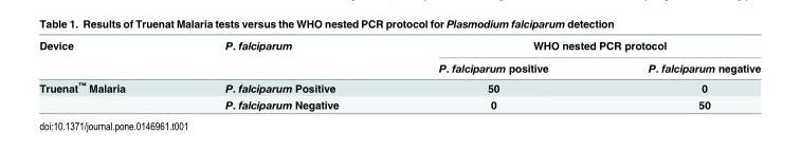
<table><thead><tr><td rowspan="2">Device</td><td rowspan="2">P. falciparum</td><td colspan="2">WHO nested PCR protocol</td></tr><tr><td>P. falciparum positive</td><td>P. falciparum negative</td></tr></thead><tbody><tr><td rowspan="2">Truenat<sup>™</sup> Malaria</td><td>P. falciparum Positive</td><td>50</td><td>0</td></tr><tr><td>P. falciparum Negative</td><td>0</td><td>50</td></tr></tbody></table>